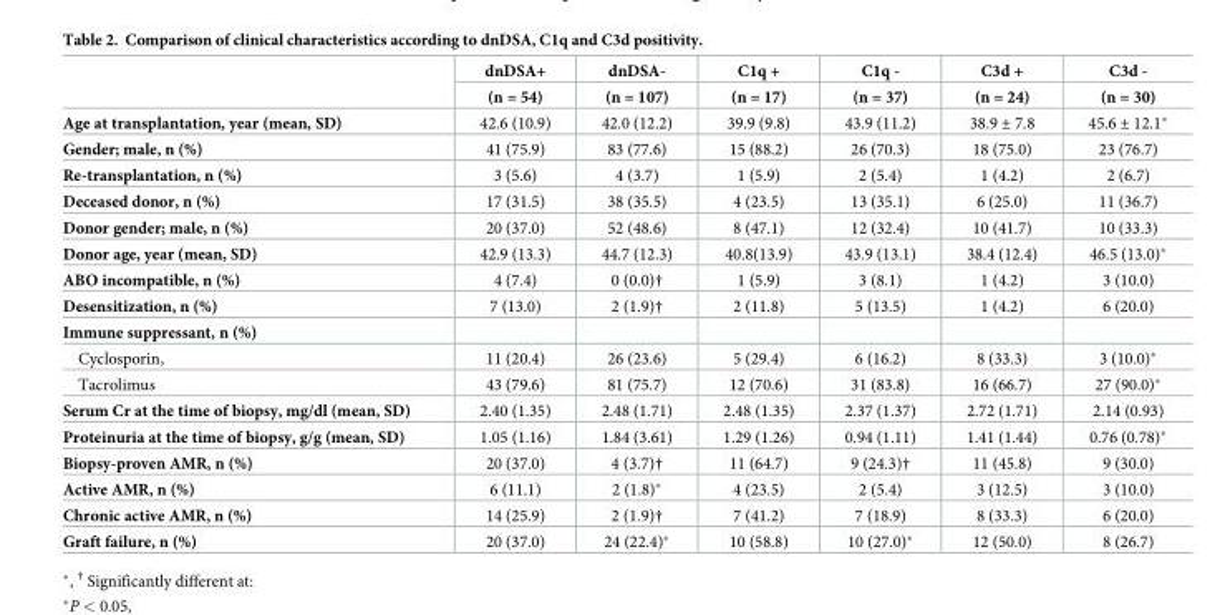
<table><thead><tr><td rowspan="2"></td><td rowspan="2">dnDSA+ (n = 54)</td><td rowspan="2">dnDSA- (n = 107)</td><td rowspan="2">C1q + (n = 17)</td><td rowspan="2">C1q - (n = 37)</td><td rowspan="2">C3d + (n = 24)</td><td rowspan="2">C3d - (n = 30)</td></tr><tr></tr></thead><tbody><tr><td>Age at transplantation, year (mean, SD)</td><td>42.6 (10.9)</td><td>42.0 (12.2)</td><td>39.9 (9.8)</td><td>43.9 (11.2)</td><td>38.9 ± 7.8</td><td>45.6 ± 12.1*</td></tr><tr><td>Gender; male, n (%)</td><td>41 (75.9)</td><td>83 (77.6)</td><td>15 (88.2)</td><td>26 (70.3)</td><td>18 (75.0)</td><td>23 (76.7)</td></tr><tr><td>Re-transplantation, n (%)</td><td>3 (5.6)</td><td>4 (3.7)</td><td>1 (5.9)</td><td>2 (5.4)</td><td>1 (4.2)</td><td>2 (6.7)</td></tr><tr><td>Deceased donor, n (%)</td><td>17 (31.5)</td><td>38 (35.5)</td><td>4 (23.5)</td><td>13 (35.1)</td><td>6 (25.0)</td><td>11 (36.7)</td></tr><tr><td>Donor gender; male, n (%)</td><td>20 (37.0)</td><td>52 (48.6)</td><td>8 (47.1)</td><td>12 (32.4)</td><td>10 (41.7)</td><td>10 (33.3)</td></tr><tr><td>Donor age, year (mean, SD)</td><td>42.9 (13.3)</td><td>44.7 (12.3)</td><td>40.8(13.9)</td><td>43.9 (13.1)</td><td>38.4 (12.4)</td><td>46.5 (13.0)*</td></tr><tr><td>ABO incompatible, n (%)</td><td>4 (7.4)</td><td>0 (0.0)†</td><td>1 (5.9)</td><td>3 (8.1)</td><td>1 (4.2)</td><td>3 (10.0)</td></tr><tr><td>Desensitization, n (%)</td><td>7 (13.0)</td><td>2 (1.9)†</td><td>2 (11.8)</td><td>5 (13.5)</td><td>1 (4.2)</td><td>6 (20.0)</td></tr><tr><td colspan="7">Immune suppressant, n (%)</td></tr><tr><td>Cyclosporin,</td><td>11 (20.4)</td><td>26 (23.6)</td><td>5 (29.4)</td><td>6 (16.2)</td><td>8 (33.3)</td><td>3 (10.0)*</td></tr><tr><td>Tacrolimus</td><td>43 (79.6)</td><td>81 (75.7)</td><td>12 (70.6)</td><td>31 (83.8)</td><td>16 (66.7)</td><td>27 (90.0)*</td></tr><tr><td>Serum Cr at the time of biopsy, mg/dl (mean, SD)</td><td>2.40 (1.35)</td><td>2.48 (1.71)</td><td>2.48 (1.35)</td><td>2.37 (1.37)</td><td>2.72 (1.71)</td><td>2.14 (0.93)</td></tr><tr><td>Proteinuria at the time of biopsy, g/g (mean, SD)</td><td>1.05 (1.16)</td><td>1.84 (3.61)</td><td>1.29 (1.26)</td><td>0.94 (1.11)</td><td>1.41 (1.44)</td><td>0.76 (0.78)*</td></tr><tr><td>Biopsy-proven AMR, n (%)</td><td>20 (37.0)</td><td>4 (3.7)†</td><td>11 (64.7)</td><td>9 (24.3)†</td><td>11 (45.8)</td><td>9 (30.0)</td></tr><tr><td>Active AMR, n (%)</td><td>6 (11.1)</td><td>2 (1.8)*</td><td>4 (23.5)</td><td>2 (5.4)</td><td>3 (12.5)</td><td>3 (10.0)</td></tr><tr><td>Chronic active AMR, n (%)</td><td>14 (25.9)</td><td>2 (1.9)†</td><td>7 (41.2)</td><td>7 (18.9)</td><td>8 (33.3)</td><td>6 (20.0)</td></tr><tr><td>Graft failure, n (%)</td><td>20 (37.0)</td><td>24 (22.4)*</td><td>10 (58.8)</td><td>10 (27.0)*</td><td>12 (50.0)</td><td>8 (26.7)</td></tr></tbody></table>